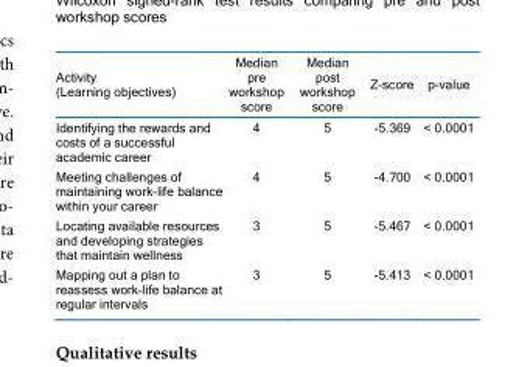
<table><thead><tr><td>Activity (Learning objectives)</td><td>Median pre workshop score</td><td>Median post workshop score</td><td>Z-score</td><td>p-value</td></tr></thead><tbody><tr><td>Identifying the rewards and costs of a successful academic career</td><td>4</td><td>5</td><td>-5.369</td><td>&lt; 0.0001</td></tr><tr><td>Meeting challenges of maintaining work-life balance within your career</td><td>4</td><td>5</td><td>-4.700</td><td>&lt; 0.0001</td></tr><tr><td>Locating available resources and developing strategies that maintain wellness</td><td>3</td><td>5</td><td>-5.467</td><td>&lt; 0.0001</td></tr><tr><td>Mapping out a plan to reassess work-life balance at regular intervals</td><td>3</td><td>5</td><td>-5.413</td><td>&lt; 0.0001</td></tr></tbody></table>